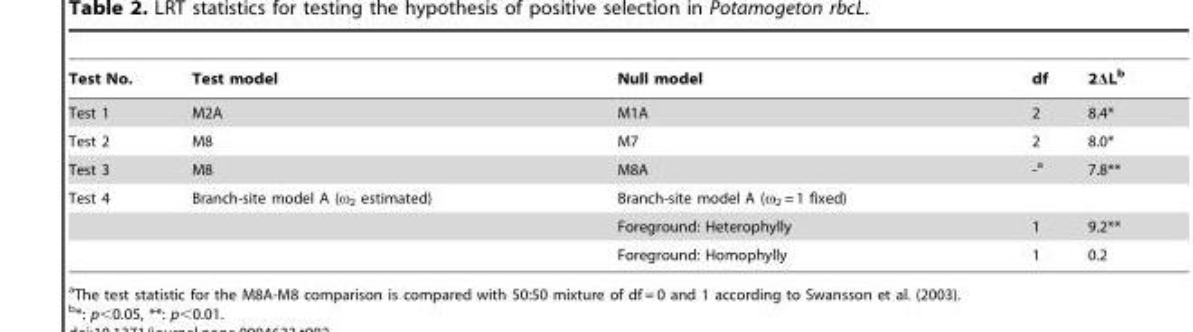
<table><thead><tr><td>Test No.</td><td>Test model</td><td>Null model</td><td>df</td><td>2ΔL<sup>b</sup></td></tr></thead><tbody><tr><td>Test 1</td><td>M2A</td><td>M1A</td><td>2</td><td>8.4*</td></tr><tr><td>Test 2</td><td>M8</td><td>M7</td><td>2</td><td>8.0*</td></tr><tr><td>Test 3</td><td>M8</td><td>M8A</td><td>-a</td><td>7.8**</td></tr><tr><td rowspan="3">Test 4</td><td>Branch-site model A (ω<sub>2</sub> estimated)</td><td>Branch-site model A (ω<sub>2</sub> = 1 fixed)</td><td></td><td></td></tr><tr><td></td><td>Foreground: Heterophylly</td><td>1</td><td>9.2**</td></tr><tr><td></td><td>Foreground: Homophylly</td><td>1</td><td>0.2</td></tr></tbody></table>